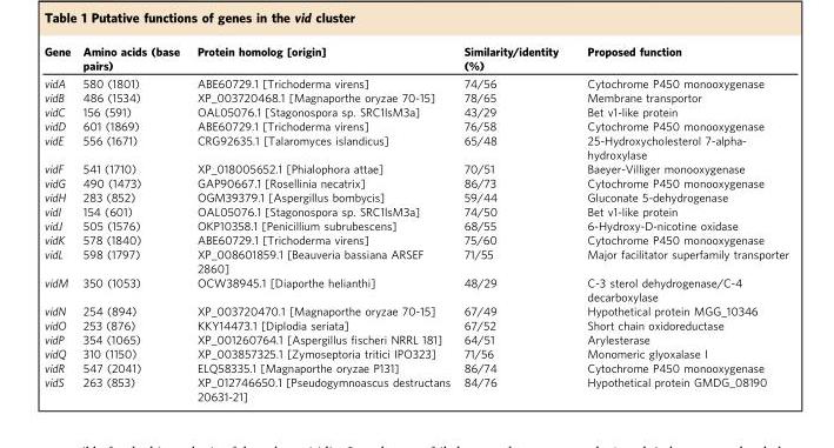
<table><thead><tr><td>Gene</td><td>Amino acids (base pairs)</td><td>Protein homolog [origin]</td><td>Similarity/identity (%)</td><td>Proposed function</td></tr></thead><tbody><tr><td>vidA</td><td>580 (1801)</td><td>ABE60729.1 [Trichoderma virens]</td><td>74/56</td><td>Cytochrome P450 monooxygenase</td></tr><tr><td>vidB</td><td>486 (1534)</td><td>XP_003720468.1 [Magnaporthe oryzae 70-15]</td><td>78/65</td><td>Membrane transportor</td></tr><tr><td>vidC</td><td>156 (591)</td><td>OAL05076.1 [Stagonospora sp. SRC1lsM3a]</td><td>43/29</td><td>Bet v1-like protein</td></tr><tr><td>vidD</td><td>601 (1869)</td><td>ABE60729.1 [Trichoderma virens]</td><td>76/58</td><td>Cytochrome P450 monooxygenase</td></tr><tr><td>vidE</td><td>556 (1671)</td><td>CRG92635.1 [Talaromyces islandicus]</td><td>65/48</td><td>25-Hydroxycholesterol 7-alpha- hydroxylase</td></tr><tr><td>vidF</td><td>541 (1710)</td><td>XP_018005652.1 [Phialophora attae]</td><td>70/51</td><td>Baeyer-Villiger monooxygenase</td></tr><tr><td>vidG</td><td>490 (1473)</td><td>GAP90667.1 [Rosellinia necatrix]</td><td>86/73</td><td>Cytochrome P450 monooxygenase</td></tr><tr><td>vidH</td><td>283 (852)</td><td>OGM39379.1 [Aspergillus bombycis]</td><td>59/44</td><td>Gluconate 5-dehydrogenase</td></tr><tr><td>vidI</td><td>154 (601)</td><td>OAL05076.1 [Stagonospora sp. SRC1lsM3a]</td><td>74/50</td><td>Bet v1-like protein</td></tr><tr><td>vidJ</td><td>505 (1576)</td><td>OKP10358.1 [Penicillium subrubescens]</td><td>68/55</td><td>6-Hydroxy-D-nicotine oxidase</td></tr><tr><td>vidK</td><td>578 (1840)</td><td>ABE60729.1 [Trichoderma virens]</td><td>75/60</td><td>Cytochrome P450 monooxygenase</td></tr><tr><td>vidL</td><td>598 (1797)</td><td>XP_008601859.1 [Beauveria bassiana ARSEF 2860]</td><td>71/55</td><td>Major facilitator superfamily transporter</td></tr><tr><td>vidM</td><td>350 (1053)</td><td>OCW38945.1 [Diaporthe helianthi]</td><td>48/29</td><td>C-3 sterol dehydrogenase/C-4 decarboxylase</td></tr><tr><td>vidN</td><td>254 (894)</td><td>XP_003720470.1 [Magnaporthe oryzae 70-15]</td><td>67/49</td><td>Hypothetical protein MGG_10346</td></tr><tr><td>vidO</td><td>253 (876)</td><td>KKY14473.1 [Diplodia seriata]</td><td>67/52</td><td>Short chain oxidoreductase</td></tr><tr><td>vidP</td><td>354 (1065)</td><td>XP_001260764.1 [Aspergillus fischeri NRRL 181]</td><td>64/51</td><td>Arylesterase</td></tr><tr><td>vidQ</td><td>310 (1150)</td><td>XP_003857325.1 [Zymoseptoria tritici IPO323]</td><td>71/56</td><td>Monomeric glyoxalase I</td></tr><tr><td>vidR</td><td>547 (2041)</td><td>ELQ58335.1 [Magnaporthe oryzae P131]</td><td>86/74</td><td>Cytochrome P450 monooxygenase</td></tr><tr><td>vidS</td><td>263 (853)</td><td>XP_012746650.1 [Pseudogymnoascus destructans 20631-21]</td><td>84/76</td><td>Hypothetical protein GMDG_08190</td></tr></tbody></table>